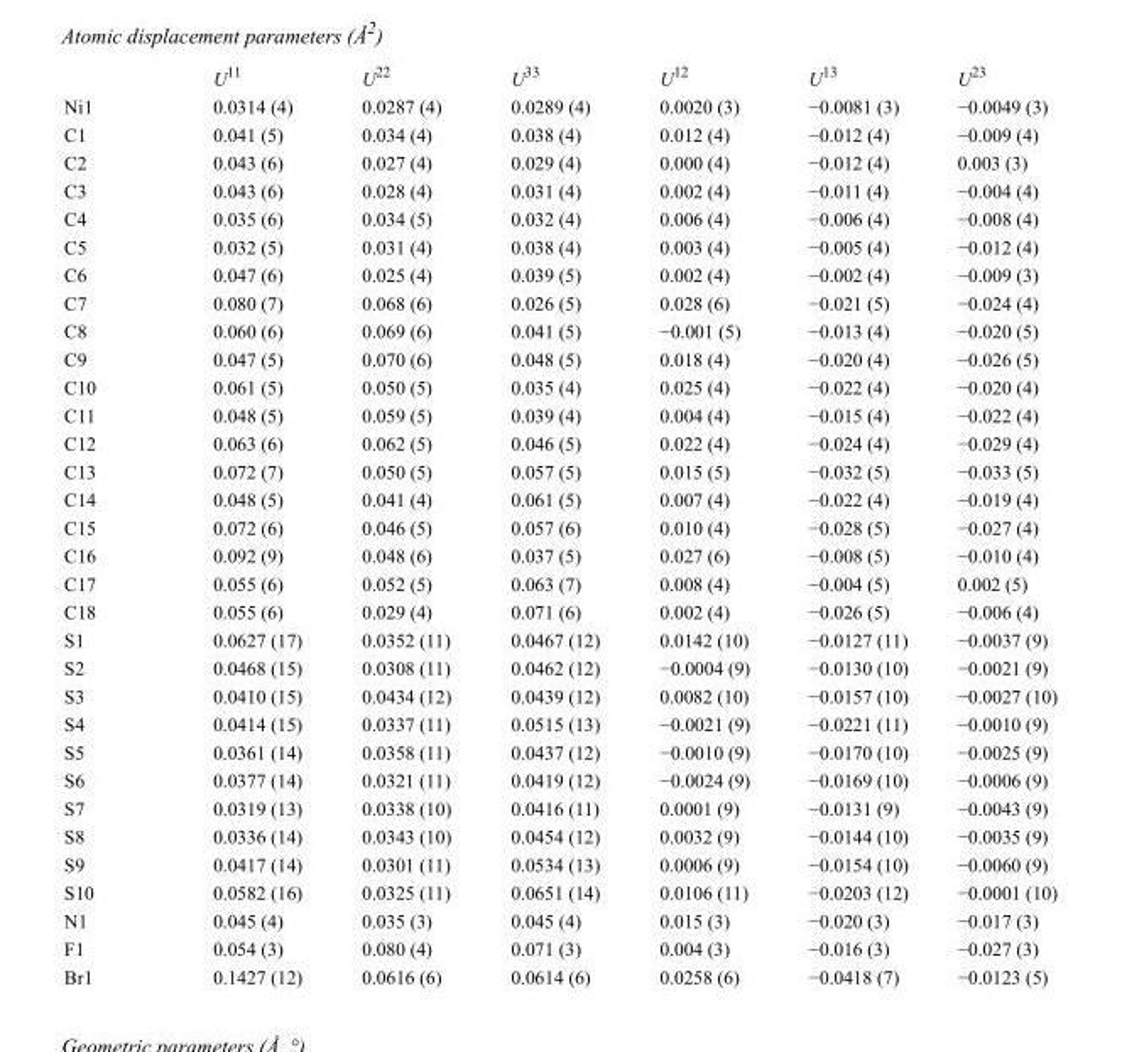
<table><thead><tr><td></td><td>U<sup>11</sup></td><td>U<sup>22</sup></td><td>U<sup>33</sup></td><td>U<sup>12</sup></td><td>U<sup>13</sup></td><td>U<sup>23</sup></td></tr></thead><tbody><tr><td>Ni1</td><td>0.0314 (4)</td><td>0.0287 (4)</td><td>0.0289 (4)</td><td>0.0020 (3)</td><td>−0.0081 (3)</td><td>−0.0049 (3)</td></tr><tr><td>C1</td><td>0.041 (5)</td><td>0.034 (4)</td><td>0.038 (4)</td><td>0.012 (4)</td><td>−0.012 (4)</td><td>−0.009 (4)</td></tr><tr><td>C2</td><td>0.043 (6)</td><td>0.027 (4)</td><td>0.029 (4)</td><td>0.000 (4)</td><td>−0.012 (4)</td><td>0.003 (3)</td></tr><tr><td>C3</td><td>0.043 (6)</td><td>0.028 (4)</td><td>0.031 (4)</td><td>0.002 (4)</td><td>−0.011 (4)</td><td>−0.004 (4)</td></tr><tr><td>C4</td><td>0.035 (6)</td><td>0.034 (5)</td><td>0.032 (4)</td><td>0.006 (4)</td><td>−0.006 (4)</td><td>−0.008 (4)</td></tr><tr><td>C5</td><td>0.032 (5)</td><td>0.031 (4)</td><td>0.038 (4)</td><td>0.003 (4)</td><td>−0.005 (4)</td><td>−0.012 (4)</td></tr><tr><td>C6</td><td>0.047 (6)</td><td>0.025 (4)</td><td>0.039 (5)</td><td>0.002 (4)</td><td>−0.002 (4)</td><td>−0.009 (3)</td></tr><tr><td>C7</td><td>0.080 (7)</td><td>0.068 (6)</td><td>0.026 (5)</td><td>0.028 (6)</td><td>−0.021 (5)</td><td>−0.024 (4)</td></tr><tr><td>C8</td><td>0.060 (6)</td><td>0.069 (6)</td><td>0.041 (5)</td><td>−0.001 (5)</td><td>−0.013 (4)</td><td>−0.020 (5)</td></tr><tr><td>C9</td><td>0.047 (5)</td><td>0.070 (6)</td><td>0.048 (5)</td><td>0.018 (4)</td><td>−0.020 (4)</td><td>−0.026 (5)</td></tr><tr><td>C10</td><td>0.061 (5)</td><td>0.050 (5)</td><td>0.035 (4)</td><td>0.025 (4)</td><td>−0.022 (4)</td><td>−0.020 (4)</td></tr><tr><td>C11</td><td>0.048 (5)</td><td>0.059 (5)</td><td>0.039 (4)</td><td>0.004 (4)</td><td>−0.015 (4)</td><td>−0.022 (4)</td></tr><tr><td>C12</td><td>0.063 (6)</td><td>0.062 (5)</td><td>0.046 (5)</td><td>0.022 (4)</td><td>−0.024 (4)</td><td>−0.029 (4)</td></tr><tr><td>C13</td><td>0.072 (7)</td><td>0.050 (5)</td><td>0.057 (5)</td><td>0.015 (5)</td><td>−0.032 (5)</td><td>−0.033 (5)</td></tr><tr><td>C14</td><td>0.048 (5)</td><td>0.041 (4)</td><td>0.061 (5)</td><td>0.007 (4)</td><td>−0.022 (4)</td><td>−0.019 (4)</td></tr><tr><td>C15</td><td>0.072 (6)</td><td>0.046 (5)</td><td>0.057 (6)</td><td>0.010 (4)</td><td>−0.028 (5)</td><td>−0.027 (4)</td></tr><tr><td>C16</td><td>0.092 (9)</td><td>0.048 (6)</td><td>0.037 (5)</td><td>0.027 (6)</td><td>−0.008 (5)</td><td>−0.010 (4)</td></tr><tr><td>C17</td><td>0.055 (6)</td><td>0.052 (5)</td><td>0.063 (7)</td><td>0.008 (4)</td><td>−0.004 (5)</td><td>0.002 (5)</td></tr><tr><td>C18</td><td>0.055 (6)</td><td>0.029 (4)</td><td>0.071 (6)</td><td>0.002 (4)</td><td>−0.026 (5)</td><td>−0.006 (4)</td></tr><tr><td>S1</td><td>0.0627 (17)</td><td>0.0352 (11)</td><td>0.0467 (12)</td><td>0.0142 (10)</td><td>−0.0127 (11)</td><td>−0.0037 (9)</td></tr><tr><td>S2</td><td>0.0468 (15)</td><td>0.0308 (11)</td><td>0.0462 (12)</td><td>−0.0004 (9)</td><td>−0.0130 (10)</td><td>−0.0021 (9)</td></tr><tr><td>S3</td><td>0.0410 (15)</td><td>0.0434 (12)</td><td>0.0439 (12)</td><td>0.0082 (10)</td><td>−0.0157 (10)</td><td>−0.0027 (10)</td></tr><tr><td>S4</td><td>0.0414 (15)</td><td>0.0337 (11)</td><td>0.0515 (13)</td><td>−0.0021 (9)</td><td>−0.0221 (11)</td><td>−0.0010 (9)</td></tr><tr><td>S5</td><td>0.0361 (14)</td><td>0.0358 (11)</td><td>0.0437 (12)</td><td>−0.0010 (9)</td><td>−0.0170 (10)</td><td>−0.0025 (9)</td></tr><tr><td>S6</td><td>0.0377 (14)</td><td>0.0321 (11)</td><td>0.0419 (12)</td><td>−0.0024 (9)</td><td>−0.0169 (10)</td><td>−0.0006 (9)</td></tr><tr><td>S7</td><td>0.0319 (13)</td><td>0.0338 (10)</td><td>0.0416 (11)</td><td>0.0001 (9)</td><td>−0.0131 (9)</td><td>−0.0043 (9)</td></tr><tr><td>S8</td><td>0.0336 (14)</td><td>0.0343 (10)</td><td>0.0454 (12)</td><td>0.0032 (9)</td><td>−0.0144 (10)</td><td>−0.0035 (9)</td></tr><tr><td>S9</td><td>0.0417 (14)</td><td>0.0301 (11)</td><td>0.0534 (13)</td><td>0.0006 (9)</td><td>−0.0154 (10)</td><td>−0.0060 (9)</td></tr><tr><td>S10</td><td>0.0582 (16)</td><td>0.0325 (11)</td><td>0.0651 (14)</td><td>0.0106 (11)</td><td>−0.0203 (12)</td><td>−0.0001 (10)</td></tr><tr><td>N1</td><td>0.045 (4)</td><td>0.035 (3)</td><td>0.045 (4)</td><td>0.015 (3)</td><td>−0.020 (3)</td><td>−0.017 (3)</td></tr><tr><td>F1</td><td>0.054 (3)</td><td>0.080 (4)</td><td>0.071 (3)</td><td>0.004 (3)</td><td>−0.016 (3)</td><td>−0.027 (3)</td></tr><tr><td>Br1</td><td>0.1427 (12)</td><td>0.0616 (6)</td><td>0.0614 (6)</td><td>0.0258 (6)</td><td>−0.0418 (7)</td><td>−0.0123 (5)</td></tr></tbody></table>